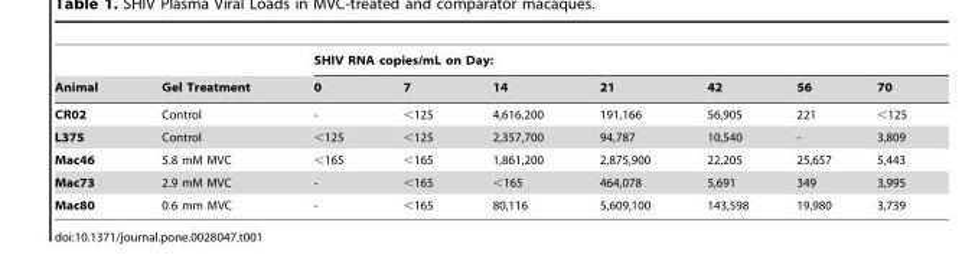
<table><thead><tr><td rowspan="2">Animal</td><td rowspan="2">Gel Treatment</td><td colspan="7">SHIV RNA copies/mL on Day:</td></tr><tr><td>0</td><td>7</td><td>14</td><td>21</td><td>42</td><td>56</td><td>70</td></tr></thead><tbody><tr><td>CR02</td><td>Control</td><td>-</td><td>&lt;125</td><td>4,616,200</td><td>191,166</td><td>56,905</td><td>221</td><td>&lt;125</td></tr><tr><td>L375</td><td>Control</td><td>&lt;125</td><td>&lt;125</td><td>2,357,700</td><td>94,787</td><td>10,540</td><td>-</td><td>3,809</td></tr><tr><td>Mac46</td><td>5.8 mM MVC</td><td>&lt;165</td><td>&lt;165</td><td>1,861,200</td><td>2,875,900</td><td>22,205</td><td>25,657</td><td>5,443</td></tr><tr><td>Mac73</td><td>2.9 mM MVC</td><td>-</td><td>&lt;165</td><td>&lt;165</td><td>464,078</td><td>5,691</td><td>349</td><td>3,995</td></tr><tr><td>Mac80</td><td>0.6 mm MVC</td><td>-</td><td>&lt;165</td><td>80,116</td><td>5,609,100</td><td>143,598</td><td>19,980</td><td>3,739</td></tr></tbody></table>